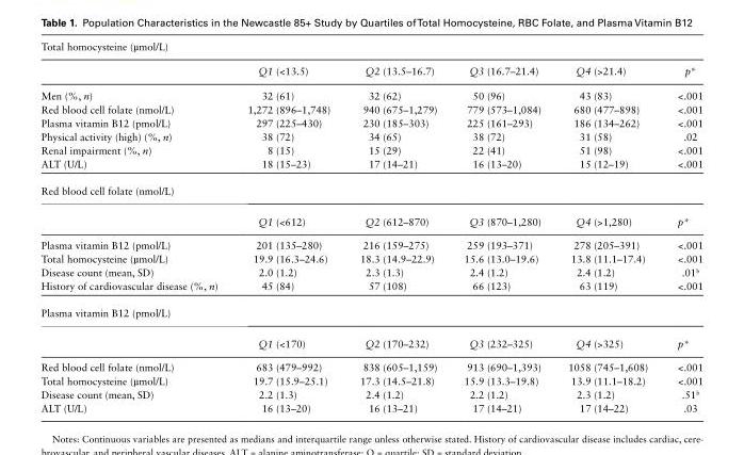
<table><thead><tr><td colspan="6">Total homocysteine (µmol/L)</td></tr><tr><td></td><td>Q1 (&lt;13.5)</td><td>Q2 (13.5–16.7)</td><td>Q3 (16.7–21.4)</td><td>Q4 (&gt;21.4)</td><td>p*</td></tr></thead><tbody><tr><td>Men (%, n)</td><td>32 (61)</td><td>32 (62)</td><td>50 (96)</td><td>43 (83)</td><td>&lt;.001</td></tr><tr><td>Red blood cell folate (nmol/L)</td><td>1,272 (896–1,748)</td><td>940 (675–1,279)</td><td>779 (573–1,084)</td><td>680 (477–898)</td><td>&lt;.001</td></tr><tr><td>Plasma vitamin B12 (pmol/L)</td><td>297 (225–430)</td><td>230 (185–303)</td><td>225 (161–293)</td><td>186 (134–262)</td><td>&lt;.001</td></tr><tr><td>Physical activity (high) (%, n)</td><td>38 (72)</td><td>34 (65)</td><td>38 (72)</td><td>31 (58)</td><td>.02</td></tr><tr><td>Renal impairment (%, n)</td><td>8 (15)</td><td>15 (29)</td><td>22 (41)</td><td>51 (98)</td><td>&lt;.001</td></tr><tr><td>ALT (U/L)</td><td>18 (15–23)</td><td>17 (14–21)</td><td>16 (13–20)</td><td>15 (12–19)</td><td>&lt;.001</td></tr><tr><td colspan="6">Red blood cell folate (nmol/L)</td></tr><tr><td></td><td>Q1 (&lt;612)</td><td>Q2 (612–870)</td><td>Q3 (870–1,280)</td><td>Q4 (&gt;1,280)</td><td>p*</td></tr><tr><td>Plasma vitamin B12 (pmol/L)</td><td>201 (135–280)</td><td>216 (159–275)</td><td>259 (193–371)</td><td>278 (205–391)</td><td>&lt;.001</td></tr><tr><td>Total homocysteine (µmol/L)</td><td>19.9 (16.3–24.6)</td><td>18.3 (14.9–22.9)</td><td>15.6 (13.0–19.6)</td><td>13.8 (11.1–17.4)</td><td>&lt;.001</td></tr><tr><td>Disease count (mean, SD)</td><td>2.0 (1.2)</td><td>2.3 (1.3)</td><td>2.4 (1.2)</td><td>2.4 (1.2)</td><td>.01<sup>b</sup></td></tr><tr><td>History of cardiovascular disease (%, n)</td><td>45 (84)</td><td>57 (108)</td><td>66 (123)</td><td>63 (119)</td><td>&lt;.001</td></tr><tr><td colspan="6">Plasma vitamin B12 (pmol/L)</td></tr><tr><td></td><td>Q1 (&lt;170)</td><td>Q2 (170–232)</td><td>Q3 (232–325)</td><td>Q4 (&gt;325)</td><td>p*</td></tr><tr><td>Red blood cell folate (nmol/L)</td><td>683 (479–992)</td><td>838 (605–1,159)</td><td>913 (690–1,393)</td><td>1058 (745–1,608)</td><td>&lt;.001</td></tr><tr><td>Total homocysteine (µmol/L)</td><td>19.7 (15.9–25.1)</td><td>17.3 (14.5–21.8)</td><td>15.9 (13.3–19.8)</td><td>13.9 (11.1–18.2)</td><td>&lt;.001</td></tr><tr><td>Disease count (mean, SD)</td><td>2.2 (1.3)</td><td>2.4 (1.2)</td><td>2.2 (1.2)</td><td>2.3 (1.2)</td><td>.51<sup>b</sup></td></tr><tr><td>ALT (U/L)</td><td>16 (13–20)</td><td>16 (13–21)</td><td>17 (14–21)</td><td>17 (14–22)</td><td>.03</td></tr></tbody></table>